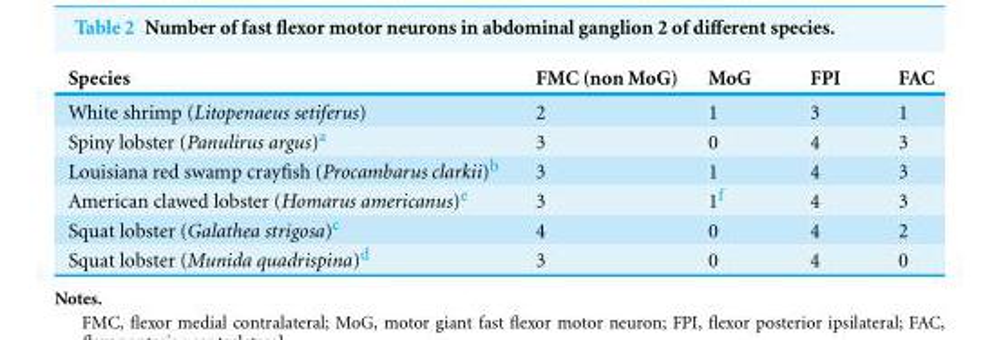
<table><thead><tr><td>Species</td><td>FMC (non MoG)</td><td>MoG</td><td>FPI</td><td>FAC</td></tr></thead><tbody><tr><td>White shrimp (Litopenaeus setiferus)</td><td>2</td><td>1</td><td>3</td><td>1</td></tr><tr><td>Spiny lobster (Panulirus argus)<sup>a</sup></td><td>3</td><td>0</td><td>4</td><td>3</td></tr><tr><td>Louisiana red swamp crayfish (Procambarus clarkii)<sup>b</sup></td><td>3</td><td>1</td><td>4</td><td>3</td></tr><tr><td>American clawed lobster (Homarus americanus)<sup>e</sup></td><td>3</td><td>1<sup>f</sup></td><td>4</td><td>3</td></tr><tr><td>Squat lobster (Galathea strigosa)<sup>c</sup></td><td>4</td><td>0</td><td>4</td><td>2</td></tr><tr><td>Squat lobster (Munida quadrispina)<sup>d</sup></td><td>3</td><td>0</td><td>4</td><td>0</td></tr></tbody></table>